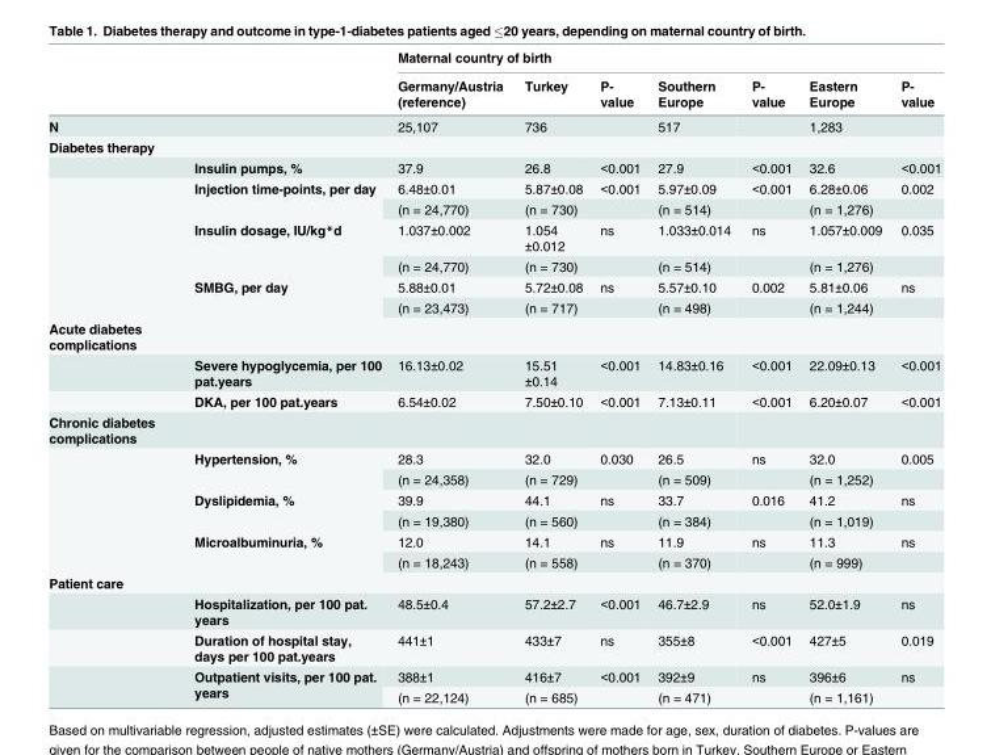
<table><thead><tr><td rowspan="2"></td><td rowspan="2"></td><td colspan="7">Maternal country of birth</td></tr><tr><td>Germany/Austria (reference)</td><td>Turkey</td><td>P- value</td><td>Southern Europe</td><td>P- value</td><td>Eastern Europe</td><td>P- value</td></tr></thead><tbody><tr><td>N</td><td></td><td>25,107</td><td>736</td><td></td><td>517</td><td></td><td>1,283</td><td></td></tr><tr><td colspan="9">Diabetes therapy</td></tr><tr><td></td><td>Insulin pumps, %</td><td>37.9</td><td>26.8</td><td>&lt;0.001</td><td>27.9</td><td>&lt;0.001</td><td>32.6</td><td>&lt;0.001</td></tr><tr><td rowspan="2"></td><td rowspan="2">Injection time-points, per day</td><td>6.48±0.01</td><td>5.87±0.08</td><td>&lt;0.001</td><td>5.97±0.09</td><td>&lt;0.001</td><td>6.28±0.06</td><td>0.002</td></tr><tr><td>(n = 24,770)</td><td>(n = 730)</td><td></td><td>(n = 514)</td><td></td><td>(n = 1,276)</td><td></td></tr><tr><td rowspan="2"></td><td rowspan="2">Insulin dosage, IU/kg*d</td><td>1.037±0.002</td><td>1.054 ±0.012</td><td>ns</td><td>1.033±0.014</td><td>ns</td><td>1.057±0.009</td><td>0.035</td></tr><tr><td>(n = 24,770)</td><td>(n = 730)</td><td></td><td>(n = 514)</td><td></td><td>(n = 1,276)</td><td></td></tr><tr><td rowspan="2"></td><td rowspan="2">SMBG, per day</td><td>5.88±0.01</td><td>5.72±0.08</td><td>ns</td><td>5.57±0.10</td><td>0.002</td><td>5.81±0.06</td><td>ns</td></tr><tr><td>(n = 23,473)</td><td>(n = 717)</td><td></td><td>(n = 498)</td><td></td><td>(n = 1,244)</td><td></td></tr><tr><td colspan="9">Acute diabetes complications</td></tr><tr><td></td><td>Severe hypoglycemia, per 100 pat.years</td><td>16.13±0.02</td><td>15.51 ±0.14</td><td>&lt;0.001</td><td>14.83±0.16</td><td>&lt;0.001</td><td>22.09±0.13</td><td>&lt;0.001</td></tr><tr><td></td><td>DKA, per 100 pat.years</td><td>6.54±0.02</td><td>7.50±0.10</td><td>&lt;0.001</td><td>7.13±0.11</td><td>&lt;0.001</td><td>6.20±0.07</td><td>&lt;0.001</td></tr><tr><td colspan="9">Chronic diabetes complications</td></tr><tr><td rowspan="2"></td><td rowspan="2">Hypertension, %</td><td>28.3</td><td>32.0</td><td>0.030</td><td>26.5</td><td>ns</td><td>32.0</td><td>0.005</td></tr><tr><td>(n = 24,358)</td><td>(n = 729)</td><td></td><td>(n = 509)</td><td></td><td>(n = 1,252)</td><td></td></tr><tr><td rowspan="2"></td><td rowspan="2">Dyslipidemia, %</td><td>39.9</td><td>44.1</td><td>ns</td><td>33.7</td><td>0.016</td><td>41.2</td><td>ns</td></tr><tr><td>(n = 19,380)</td><td>(n = 560)</td><td></td><td>(n = 384)</td><td></td><td>(n = 1,019)</td><td></td></tr><tr><td rowspan="2"></td><td rowspan="2">Microalbuminuria, %</td><td>12.0</td><td>14.1</td><td>ns</td><td>11.9</td><td>ns</td><td>11.3</td><td>ns</td></tr><tr><td>(n = 18,243)</td><td>(n = 558)</td><td></td><td>(n = 370)</td><td></td><td>(n = 999)</td><td></td></tr><tr><td colspan="9">Patient care</td></tr><tr><td></td><td>Hospitalization, per 100 pat. years</td><td>48.5±0.4</td><td>57.2±2.7</td><td>&lt;0.001</td><td>46.7±2.9</td><td>ns</td><td>52.0±1.9</td><td>ns</td></tr><tr><td></td><td>Duration of hospital stay, days per 100 pat.years</td><td>441±1</td><td>433±7</td><td>ns</td><td>355±8</td><td>&lt;0.001</td><td>427±5</td><td>0.019</td></tr><tr><td rowspan="2"></td><td rowspan="2">Outpatient visits, per 100 pat. years</td><td>388±1</td><td>416±7</td><td>&lt;0.001</td><td>392±9</td><td>ns</td><td>396±6</td><td>ns</td></tr><tr><td>(n = 22,124)</td><td>(n = 685)</td><td></td><td>(n = 471)</td><td></td><td>(n = 1,161)</td><td></td></tr></tbody></table>